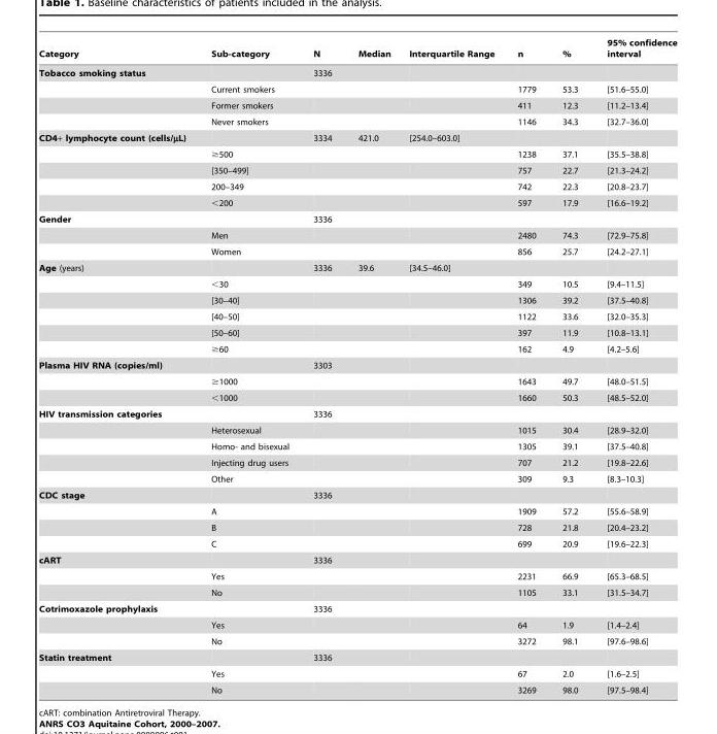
<table><thead><tr><td>Category</td><td>Sub-category</td><td>N</td><td>Median</td><td>Interquartile Range</td><td>n</td><td>%</td><td>95% confidence interval</td></tr></thead><tbody><tr><td rowspan="4">Tobacco smoking status</td><td></td><td>3336</td><td></td><td></td><td></td><td></td><td></td></tr><tr><td>Current smokers</td><td></td><td></td><td></td><td>1779</td><td>53.3</td><td>[51.6–55.0]</td></tr><tr><td>Former smokers</td><td></td><td></td><td></td><td>411</td><td>12.3</td><td>[11.2–13.4]</td></tr><tr><td>Never smokers</td><td></td><td></td><td></td><td>1146</td><td>34.3</td><td>[32.7–36.0]</td></tr><tr><td rowspan="5">CD4+ lymphocyte count (cells/µL)</td><td></td><td>3334</td><td>421.0</td><td>[254.0–603.0]</td><td></td><td></td><td></td></tr><tr><td>≥500</td><td></td><td></td><td></td><td>1238</td><td>37.1</td><td>[35.5–38.8]</td></tr><tr><td>[350–499]</td><td></td><td></td><td></td><td>757</td><td>22.7</td><td>[21.3–24.2]</td></tr><tr><td>200–349</td><td></td><td></td><td></td><td>742</td><td>22.3</td><td>[20.8–23.7]</td></tr><tr><td>&lt;200</td><td></td><td></td><td></td><td>597</td><td>17.9</td><td>[16.6–19.2]</td></tr><tr><td rowspan="3">Gender</td><td></td><td>3336</td><td></td><td></td><td></td><td></td><td></td></tr><tr><td>Men</td><td></td><td></td><td></td><td>2480</td><td>74.3</td><td>[72.9–75.8]</td></tr><tr><td>Women</td><td></td><td></td><td></td><td>856</td><td>25.7</td><td>[24.2–27.1]</td></tr><tr><td rowspan="6">Age (years)</td><td></td><td>3336</td><td>39.6</td><td>[34.5–46.0]</td><td></td><td></td><td></td></tr><tr><td>&lt;30</td><td></td><td></td><td></td><td>349</td><td>10.5</td><td>[9.4–11.5]</td></tr><tr><td>[30–40]</td><td></td><td></td><td></td><td>1306</td><td>39.2</td><td>[37.5–40.8]</td></tr><tr><td>[40–50]</td><td></td><td></td><td></td><td>1122</td><td>33.6</td><td>[32.0–35.3]</td></tr><tr><td>[50–60]</td><td></td><td></td><td></td><td>397</td><td>11.9</td><td>[10.8–13.1]</td></tr><tr><td>≥60</td><td></td><td></td><td></td><td>162</td><td>4.9</td><td>[4.2–5.6]</td></tr><tr><td rowspan="3">Plasma HIV RNA (copies/ml)</td><td></td><td>3303</td><td></td><td></td><td></td><td></td><td></td></tr><tr><td>≥1000</td><td></td><td></td><td></td><td>1643</td><td>49.7</td><td>[48.0–51.5]</td></tr><tr><td>&lt;1000</td><td></td><td></td><td></td><td>1660</td><td>50.3</td><td>[48.5–52.0]</td></tr><tr><td rowspan="5">HIV transmission categories</td><td></td><td>3336</td><td></td><td></td><td></td><td></td><td></td></tr><tr><td>Heterosexual</td><td></td><td></td><td></td><td>1015</td><td>30.4</td><td>[28.9–32.0]</td></tr><tr><td>Homo- and bisexual</td><td></td><td></td><td></td><td>1305</td><td>39.1</td><td>[37.5–40.8]</td></tr><tr><td>Injecting drug users</td><td></td><td></td><td></td><td>707</td><td>21.2</td><td>[19.8–22.6]</td></tr><tr><td>Other</td><td></td><td></td><td></td><td>309</td><td>9.3</td><td>[8.3–10.3]</td></tr><tr><td rowspan="4">CDC stage</td><td></td><td>3336</td><td></td><td></td><td></td><td></td><td></td></tr><tr><td>A</td><td></td><td></td><td></td><td>1909</td><td>57.2</td><td>[55.6–58.9]</td></tr><tr><td>B</td><td></td><td></td><td></td><td>728</td><td>21.8</td><td>[20.4–23.2]</td></tr><tr><td>C</td><td></td><td></td><td></td><td>699</td><td>20.9</td><td>[19.6–22.3]</td></tr><tr><td rowspan="3">cART</td><td></td><td>3336</td><td></td><td></td><td></td><td></td><td></td></tr><tr><td>Yes</td><td></td><td></td><td></td><td>2231</td><td>66.9</td><td>[65.3–68.5]</td></tr><tr><td>No</td><td></td><td></td><td></td><td>1105</td><td>33.1</td><td>[31.5–34.7]</td></tr><tr><td rowspan="3">Cotrimoxazole prophylaxis</td><td></td><td>3336</td><td></td><td></td><td></td><td></td><td></td></tr><tr><td>Yes</td><td></td><td></td><td></td><td>64</td><td>1.9</td><td>[1.4–2.4]</td></tr><tr><td>No</td><td></td><td></td><td></td><td>3272</td><td>98.1</td><td>[97.6–98.6]</td></tr><tr><td rowspan="3">Statin treatment</td><td></td><td>3336</td><td></td><td></td><td></td><td></td><td></td></tr><tr><td>Yes</td><td></td><td></td><td></td><td>67</td><td>2.0</td><td>[1.6–2.5]</td></tr><tr><td>No</td><td></td><td></td><td></td><td>3269</td><td>98.0</td><td>[97.5–98.4]</td></tr></tbody></table>